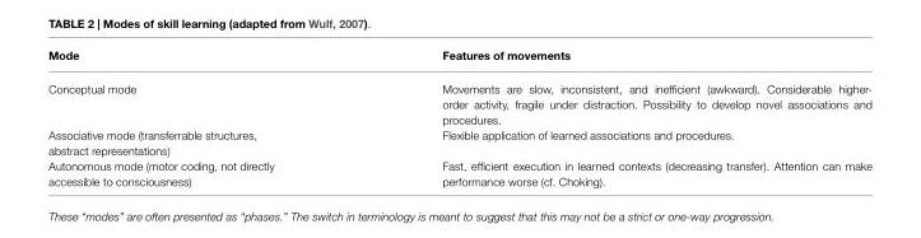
<table><thead><tr><td>Mode</td><td>Features of movements</td></tr></thead><tbody><tr><td>Conceptual mode</td><td>Movements are slow, inconsistent, and inefficient (awkward). Considerable higher- order activity, fragile under distraction. Possibility to develop novel associations and procedures.</td></tr><tr><td>Associative mode (transferrable structures, abstract representations)</td><td>Flexible application of learned associations and procedures.</td></tr><tr><td>Autonomous mode (motor coding, not directly accessible to consciousness)</td><td>Fast, efficient execution in learned contexts (decreasing transfer). Attention can make performance worse (cf. Choking).</td></tr></tbody></table>